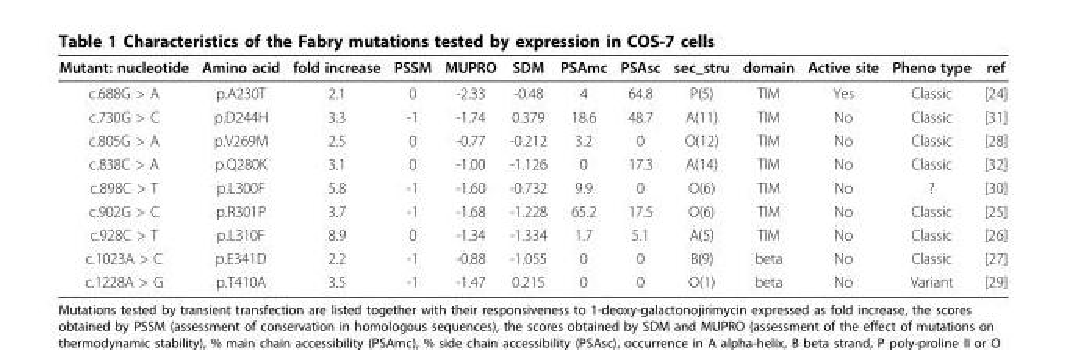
<table><thead><tr><td>Mutant: nucleotide</td><td>Amino acid</td><td>fold increase</td><td>PSSM</td><td>MUPRO</td><td>SDM</td><td>PSAmc</td><td>PSAsc</td><td>sec_stru</td><td>domain</td><td>Active site</td><td>Pheno type</td><td>ref</td></tr></thead><tbody><tr><td>c.688G &gt; A</td><td>p.A230T</td><td>2.1</td><td>0</td><td>-2.33</td><td>-0.48</td><td>4</td><td>64.8</td><td>P(5)</td><td>TIM</td><td>Yes</td><td>Classic</td><td>[24]</td></tr><tr><td>c.730G &gt; C</td><td>p.D244H</td><td>3.3</td><td>-1</td><td>-1.74</td><td>0.379</td><td>18.6</td><td>48.7</td><td>A(11)</td><td>TIM</td><td>No</td><td>Classic</td><td>[31]</td></tr><tr><td>c.805G &gt; A</td><td>p.V269M</td><td>2.5</td><td>0</td><td>-0.77</td><td>-0.212</td><td>3.2</td><td>0</td><td>O(12)</td><td>TIM</td><td>No</td><td>Classic</td><td>[28]</td></tr><tr><td>c.838C &gt; A</td><td>p.Q280K</td><td>3.1</td><td>0</td><td>-1.00</td><td>-1.126</td><td>0</td><td>17.3</td><td>A(14)</td><td>TIM</td><td>No</td><td>Classic</td><td>[32]</td></tr><tr><td>c.898C &gt; T</td><td>p.L300F</td><td>5.8</td><td>-1</td><td>-1.60</td><td>-0.732</td><td>9.9</td><td>0</td><td>O(6)</td><td>TIM</td><td>No</td><td>?</td><td>[30]</td></tr><tr><td>c.902G &gt; C</td><td>p.R301P</td><td>3.7</td><td>-1</td><td>-1.68</td><td>-1.228</td><td>65.2</td><td>17.5</td><td>O(6)</td><td>TIM</td><td>No</td><td>Classic</td><td>[25]</td></tr><tr><td>c.928C &gt; T</td><td>p.L310F</td><td>8.9</td><td>0</td><td>-1.34</td><td>-1.334</td><td>1.7</td><td>5.1</td><td>A(5)</td><td>TIM</td><td>No</td><td>Classic</td><td>[26]</td></tr><tr><td>c.1023A &gt; C</td><td>p.E341D</td><td>2.2</td><td>-1</td><td>-0.88</td><td>-1.055</td><td>0</td><td>0</td><td>B(9)</td><td>beta</td><td>No</td><td>Classic</td><td>[27]</td></tr><tr><td>c.1228A &gt; G</td><td>p.T410A</td><td>3.5</td><td>-1</td><td>-1.47</td><td>0.215</td><td>0</td><td>0</td><td>O(1)</td><td>beta</td><td>No</td><td>Variant</td><td>[29]</td></tr></tbody></table>